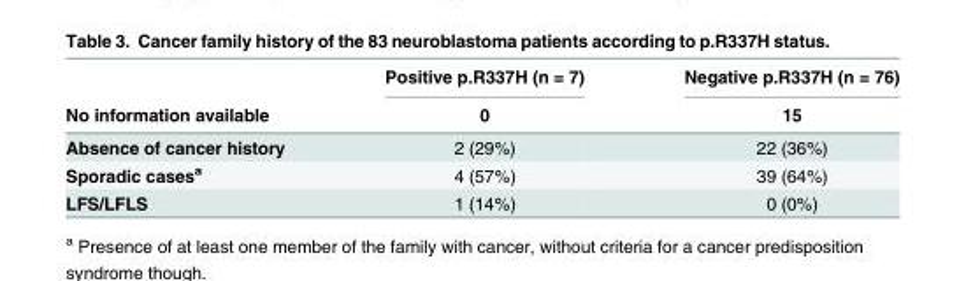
<table><thead><tr><td rowspan="2">No information available</td><td rowspan="2">Positive p.R337H (n = 7) 0</td><td rowspan="2">Negative p.R337H (n = 76) 15</td></tr><tr></tr></thead><tbody><tr><td>Absence of cancer history</td><td>2 (29%)</td><td>22 (36%)</td></tr><tr><td>Sporadic cases<sup>a</sup></td><td>4 (57%)</td><td>39 (64%)</td></tr><tr><td>LFS/LFLS</td><td>1 (14%)</td><td>0 (0%)</td></tr></tbody></table>